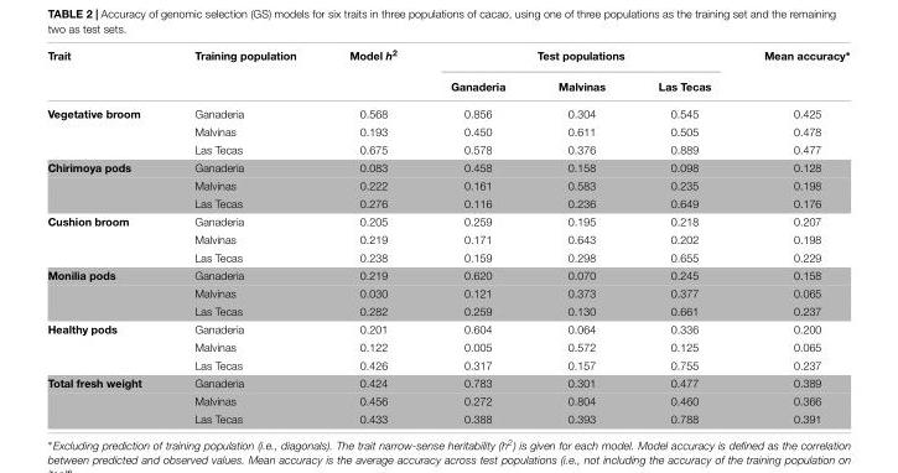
<table><thead><tr><td rowspan="2">Trait</td><td rowspan="2">Training population</td><td rowspan="2">Model h<sup>2</sup></td><td colspan="3">Test populations</td><td rowspan="2">Mean accuracy∗</td></tr><tr><td>Ganaderia</td><td>Malvinas</td><td>Las Tecas</td></tr></thead><tbody><tr><td rowspan="3">Vegetative broom</td><td>Ganaderia</td><td>0.568</td><td>0.856</td><td>0.304</td><td>0.545</td><td>0.425</td></tr><tr><td>Malvinas</td><td>0.193</td><td>0.450</td><td>0.611</td><td>0.505</td><td>0.478</td></tr><tr><td>Las Tecas</td><td>0.675</td><td>0.578</td><td>0.376</td><td>0.889</td><td>0.477</td></tr><tr><td rowspan="3">Chirimoya pods</td><td>Ganaderia</td><td>0.083</td><td>0.458</td><td>0.158</td><td>0.098</td><td>0.128</td></tr><tr><td>Malvinas</td><td>0.222</td><td>0.161</td><td>0.583</td><td>0.235</td><td>0.198</td></tr><tr><td>Las Tecas</td><td>0.276</td><td>0.116</td><td>0.236</td><td>0.649</td><td>0.176</td></tr><tr><td rowspan="3">Cushion broom</td><td>Ganaderia</td><td>0.205</td><td>0.259</td><td>0.195</td><td>0.218</td><td>0.207</td></tr><tr><td>Malvinas</td><td>0.219</td><td>0.171</td><td>0.643</td><td>0.202</td><td>0.198</td></tr><tr><td>Las Tecas</td><td>0.238</td><td>0.159</td><td>0.298</td><td>0.655</td><td>0.229</td></tr><tr><td rowspan="3">Monilia pods</td><td>Ganaderia</td><td>0.219</td><td>0.620</td><td>0.070</td><td>0.245</td><td>0.158</td></tr><tr><td>Malvinas</td><td>0.030</td><td>0.121</td><td>0.373</td><td>0.377</td><td>0.065</td></tr><tr><td>Las Tecas</td><td>0.282</td><td>0.259</td><td>0.130</td><td>0.661</td><td>0.237</td></tr><tr><td rowspan="3">Healthy pods</td><td>Ganaderia</td><td>0.201</td><td>0.604</td><td>0.064</td><td>0.336</td><td>0.200</td></tr><tr><td>Malvinas</td><td>0.122</td><td>0.005</td><td>0.572</td><td>0.125</td><td>0.065</td></tr><tr><td>Las Tecas</td><td>0.426</td><td>0.317</td><td>0.157</td><td>0.755</td><td>0.237</td></tr><tr><td rowspan="3">Total fresh weight</td><td>Ganaderia</td><td>0.424</td><td>0.783</td><td>0.301</td><td>0.477</td><td>0.389</td></tr><tr><td>Malvinas</td><td>0.456</td><td>0.272</td><td>0.804</td><td>0.460</td><td>0.366</td></tr><tr><td>Las Tecas</td><td>0.433</td><td>0.388</td><td>0.393</td><td>0.788</td><td>0.391</td></tr></tbody></table>